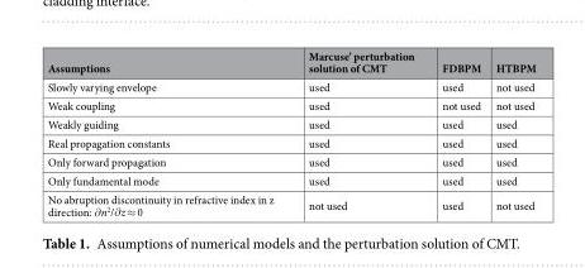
<table><thead><tr><td>Assumptions</td><td>Marcuse’ perturbation solution of CMT</td><td>FDBPM</td><td>HTBPM</td></tr></thead><tbody><tr><td>Slowly varying envelope</td><td>used</td><td>used</td><td>not used</td></tr><tr><td>Weak coupling</td><td>used</td><td>not used</td><td>not used</td></tr><tr><td>Weakly guiding</td><td>used</td><td>used</td><td>used</td></tr><tr><td>Real propagation constants</td><td>used</td><td>used</td><td>used</td></tr><tr><td>Only forward propagation</td><td>used</td><td>used</td><td>used</td></tr><tr><td>Only fundamental mode</td><td>used</td><td>used</td><td>used</td></tr><tr><td>No abruption discontinuity in refractive index in z direction: ∂n<sup>2</sup>/∂z ≈ 0</td><td>not used</td><td>used</td><td>not used</td></tr></tbody></table>